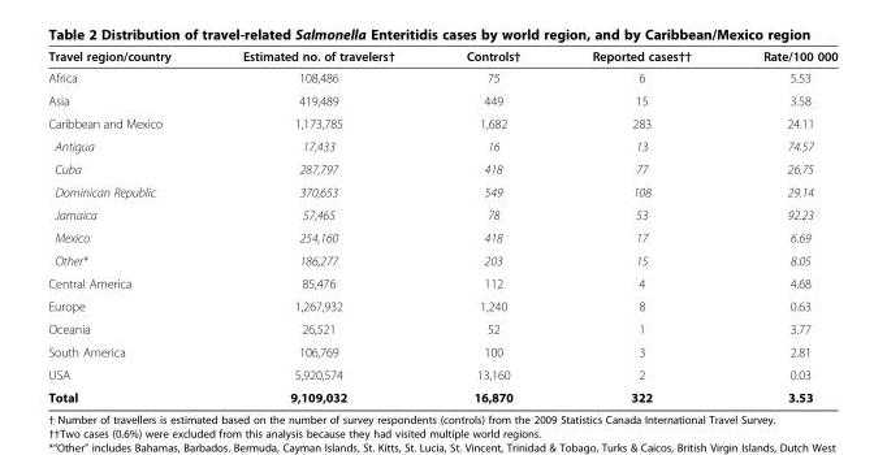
<table><thead><tr><td>Travel region/country</td><td>Estimated no. of travelers†</td><td>Controls†</td><td>Reported cases††</td><td>Rate/100 000</td></tr></thead><tbody><tr><td>Africa</td><td>108,486</td><td>75</td><td>6</td><td>5.53</td></tr><tr><td>Asia</td><td>419,489</td><td>449</td><td>15</td><td>3.58</td></tr><tr><td>Caribbean and Mexico</td><td>1,173,785</td><td>1,682</td><td>283</td><td>24.11</td></tr><tr><td>Antigua</td><td>17,433</td><td>16</td><td>13</td><td>74.57</td></tr><tr><td>Cuba</td><td>287,797</td><td>418</td><td>77</td><td>26.75</td></tr><tr><td>Dominican Republic</td><td>370,653</td><td>549</td><td>108</td><td>29.14</td></tr><tr><td>Jamaica</td><td>57,465</td><td>78</td><td>53</td><td>92.23</td></tr><tr><td>Mexico</td><td>254,160</td><td>418</td><td>17</td><td>6.69</td></tr><tr><td>Other*</td><td>186,277</td><td>203</td><td>15</td><td>8.05</td></tr><tr><td>Central America</td><td>85,476</td><td>112</td><td>4</td><td>4.68</td></tr><tr><td>Europe</td><td>1,267,932</td><td>1,240</td><td>8</td><td>0.63</td></tr><tr><td>Oceania</td><td>26,521</td><td>52</td><td>1</td><td>3.77</td></tr><tr><td>South America</td><td>106,769</td><td>100</td><td>3</td><td>2.81</td></tr><tr><td>USA</td><td>5,920,574</td><td>13,160</td><td>2</td><td>0.03</td></tr><tr><td>Total</td><td>9,109,032</td><td>16,870</td><td>322</td><td>3.53</td></tr></tbody></table>